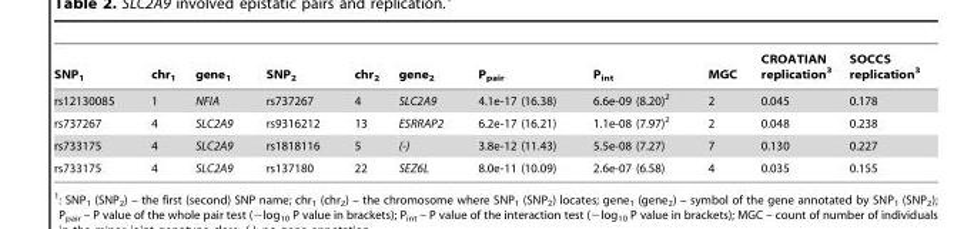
<table><thead><tr><td>SNP<sub>1</sub></td><td>chr<sub>1</sub></td><td>gene<sub>1</sub></td><td>SNP<sub>2</sub></td><td>chr<sub>2</sub></td><td>gene<sub>2</sub></td><td>P<sub>pair</sub></td><td>P<sub>int</sub></td><td>MGC</td><td>CROATIAN replication<sup>3</sup></td><td>SOCCS replication<sup>3</sup></td></tr></thead><tbody><tr><td>rs12130085</td><td>1</td><td>NFIA</td><td>rs737267</td><td>4</td><td>SLC2A9</td><td>4.1e-17 (16.38)</td><td>6.6e-09 (8.20)<sup>2</sup></td><td>2</td><td>0.045</td><td>0.178</td></tr><tr><td>rs737267</td><td>4</td><td>SLC2A9</td><td>rs9316212</td><td>13</td><td>ESRRAP2</td><td>6.2e-17 (16.21)</td><td>1.1e-08 (7.97)<sup>2</sup></td><td>2</td><td>0.048</td><td>0.238</td></tr><tr><td>rs733175</td><td>4</td><td>SLC2A9</td><td>rs1818116</td><td>5</td><td>(-)</td><td>3.8e-12 (11.43)</td><td>5.5e-08 (7.27)</td><td>7</td><td>0.130</td><td>0.227</td></tr><tr><td>rs733175</td><td>4</td><td>SLC2A9</td><td>rs137180</td><td>22</td><td>SEZ6L</td><td>8.0e-11 (10.09)</td><td>2.6e-07 (6.58)</td><td>4</td><td>0.035</td><td>0.155</td></tr></tbody></table>